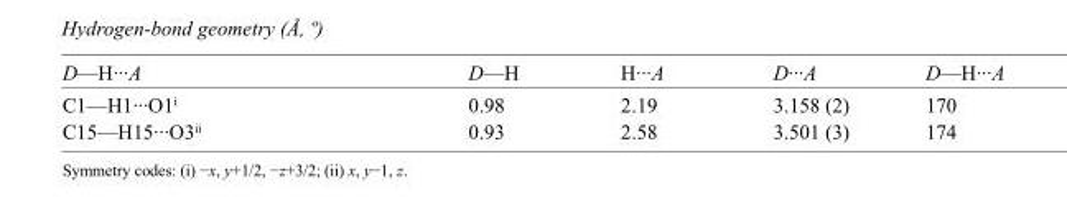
<table><tbody><tr><td>D—H···A</td><td>D—H</td><td>H···A</td><td>D···A</td><td>D—H···A</td></tr><tr><td>C1—H1···O1<sup>i</sup></td><td>0.98</td><td>2.19</td><td>3.158 (2)</td><td>170</td></tr><tr><td>C15—H15···O3<sup>ii</sup></td><td>0.93</td><td>2.58</td><td>3.501 (3)</td><td>174</td></tr></tbody></table>